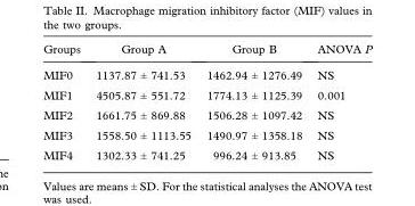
<table><thead><tr><td>Groups</td><td>Group A</td><td>Group B</td><td>ANOVA P</td></tr></thead><tbody><tr><td>MIF0</td><td>1137.87 ± 741.53</td><td>1462.94 ± 1276.49</td><td>NS</td></tr><tr><td>MIF1</td><td>4505.87 ± 551.72</td><td>1774.13 ± 1125.39</td><td>0.001</td></tr><tr><td>MIF2</td><td>1661.75 ± 869.88</td><td>1506.28 ± 1097.42</td><td>NS</td></tr><tr><td>MIF3</td><td>1558.50 ± 1113.55</td><td>1490.97 ± 1358.18</td><td>NS</td></tr><tr><td>MIF4</td><td>1302.33 ± 741.25</td><td>996.24 ± 913.85</td><td>NS</td></tr></tbody></table>